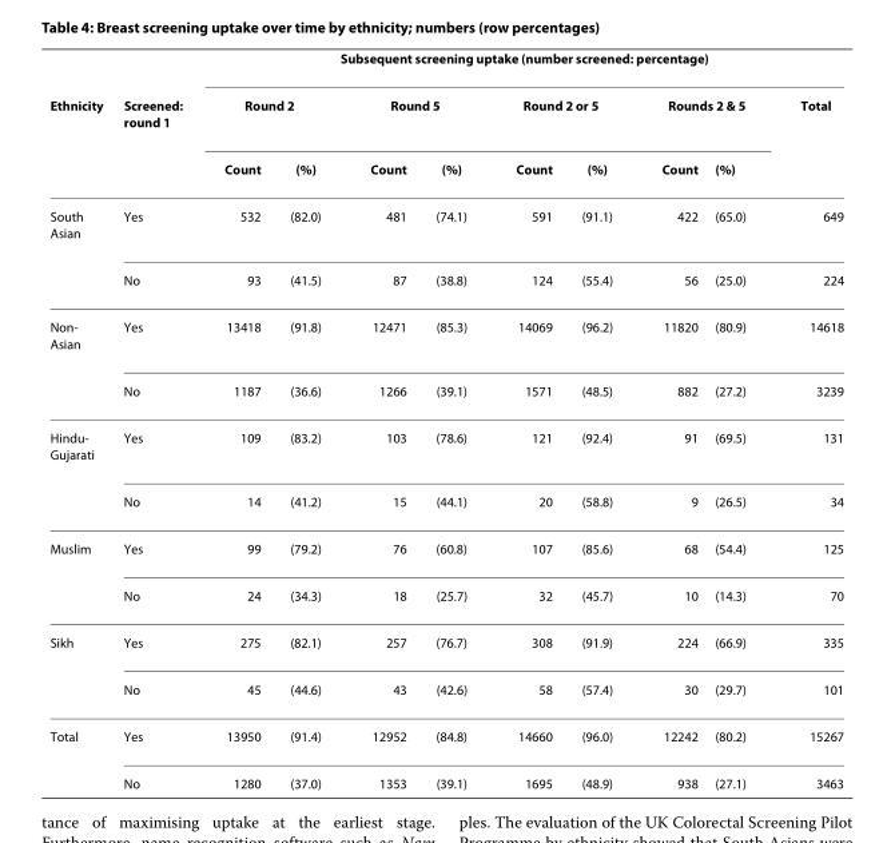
<table><thead><tr><td rowspan="3">Ethnicity</td><td rowspan="3">Screened: round 1</td><td colspan="9">Subsequent screening uptake (number screened: percentage)</td></tr><tr><td colspan="2">Round 2</td><td colspan="2">Round 5</td><td colspan="2">Round 2 or 5</td><td colspan="2">Rounds 2 &amp; 5</td><td rowspan="2">Total</td></tr><tr><td>Count</td><td>(%)</td><td>Count</td><td>(%)</td><td>Count</td><td>(%)</td><td>Count</td><td>(%)</td></tr></thead><tbody><tr><td rowspan="2">South Asian</td><td>Yes</td><td>532</td><td>(82.0)</td><td>481</td><td>(74.1)</td><td>591</td><td>(91.1)</td><td>422</td><td>(65.0)</td><td>649</td></tr><tr><td>No</td><td>93</td><td>(41.5)</td><td>87</td><td>(38.8)</td><td>124</td><td>(55.4)</td><td>56</td><td>(25.0)</td><td>224</td></tr><tr><td rowspan="2">Non- Asian</td><td>Yes</td><td>13418</td><td>(91.8)</td><td>12471</td><td>(85.3)</td><td>14069</td><td>(96.2)</td><td>11820</td><td>(80.9)</td><td>14618</td></tr><tr><td>No</td><td>1187</td><td>(36.6)</td><td>1266</td><td>(39.1)</td><td>1571</td><td>(48.5)</td><td>882</td><td>(27.2)</td><td>3239</td></tr><tr><td rowspan="2">Hindu- Gujarati</td><td>Yes</td><td>109</td><td>(83.2)</td><td>103</td><td>(78.6)</td><td>121</td><td>(92.4)</td><td>91</td><td>(69.5)</td><td>131</td></tr><tr><td>No</td><td>14</td><td>(41.2)</td><td>15</td><td>(44.1)</td><td>20</td><td>(58.8)</td><td>9</td><td>(26.5)</td><td>34</td></tr><tr><td rowspan="2">Muslim</td><td>Yes</td><td>99</td><td>(79.2)</td><td>76</td><td>(60.8)</td><td>107</td><td>(85.6)</td><td>68</td><td>(54.4)</td><td>125</td></tr><tr><td>No</td><td>24</td><td>(34.3)</td><td>18</td><td>(25.7)</td><td>32</td><td>(45.7)</td><td>10</td><td>(14.3)</td><td>70</td></tr><tr><td rowspan="2">Sikh</td><td>Yes</td><td>275</td><td>(82.1)</td><td>257</td><td>(76.7)</td><td>308</td><td>(91.9)</td><td>224</td><td>(66.9)</td><td>335</td></tr><tr><td>No</td><td>45</td><td>(44.6)</td><td>43</td><td>(42.6)</td><td>58</td><td>(57.4)</td><td>30</td><td>(29.7)</td><td>101</td></tr><tr><td rowspan="2">Total</td><td>Yes</td><td>13950</td><td>(91.4)</td><td>12952</td><td>(84.8)</td><td>14660</td><td>(96.0)</td><td>12242</td><td>(80.2)</td><td>15267</td></tr><tr><td>No</td><td>1280</td><td>(37.0)</td><td>1353</td><td>(39.1)</td><td>1695</td><td>(48.9)</td><td>938</td><td>(27.1)</td><td>3463</td></tr></tbody></table>